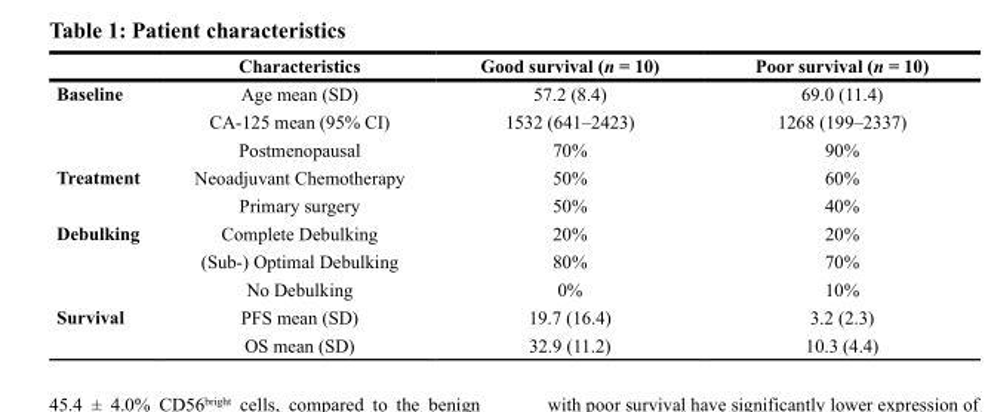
<table><thead><tr><td></td><td>Characteristics</td><td>Good survival (n = 10)</td><td>Poor survival (n = 10)</td></tr></thead><tbody><tr><td rowspan="3">Baseline</td><td>Age mean (SD)</td><td>57.2 (8.4)</td><td>69.0 (11.4)</td></tr><tr><td>CA-125 mean (95% CI)</td><td>1532 (641–2423)</td><td>1268 (199–2337)</td></tr><tr><td>Postmenopausal</td><td>70%</td><td>90%</td></tr><tr><td rowspan="2">Treatment</td><td>Neoadjuvant Chemotherapy</td><td>50%</td><td>60%</td></tr><tr><td>Primary surgery</td><td>50%</td><td>40%</td></tr><tr><td rowspan="3">Debulking</td><td>Complete Debulking</td><td>20%</td><td>20%</td></tr><tr><td>(Sub-) Optimal Debulking</td><td>80%</td><td>70%</td></tr><tr><td>No Debulking</td><td>0%</td><td>10%</td></tr><tr><td rowspan="2">Survival</td><td>PFS mean (SD)</td><td>19.7 (16.4)</td><td>3.2 (2.3)</td></tr><tr><td>OS mean (SD)</td><td>32.9 (11.2)</td><td>10.3 (4.4)</td></tr></tbody></table>